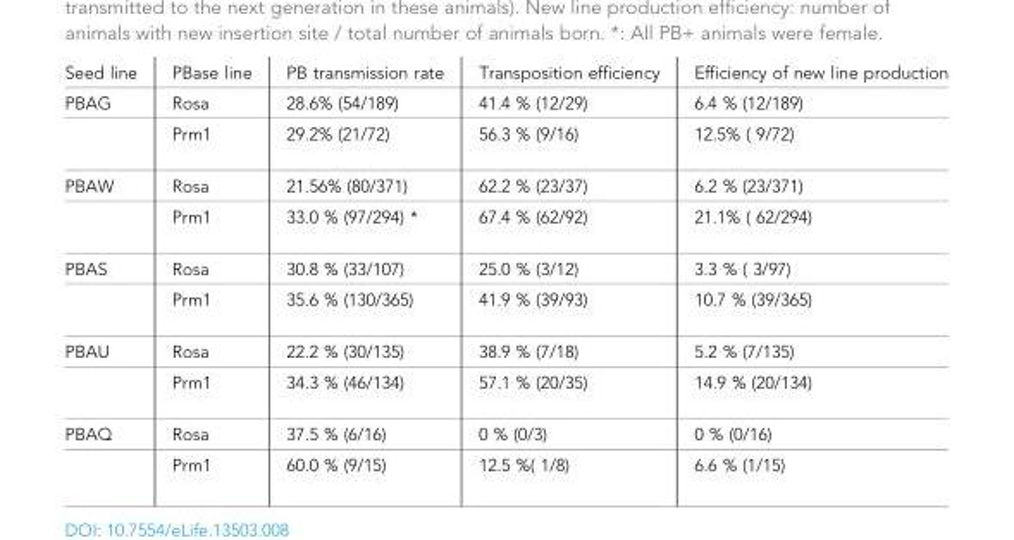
<table><tbody><tr><td>Seed line</td><td>PBase line</td><td>PB transmission rate</td><td>Transposition efficiency</td><td>Efficiency of new line production</td></tr><tr><td rowspan="2">PBAG</td><td>Rosa</td><td>28.6% (54/189)</td><td>41.4 % (12/29)</td><td>6.4 % (12/189)</td></tr><tr><td>Prm1</td><td>29.2% (21/72)</td><td>56.3 % (9/16)</td><td>12.5% ( 9/72)</td></tr><tr><td rowspan="2">PBAW</td><td>Rosa</td><td>21.56% (80/371)</td><td>62.2 % (23/37)</td><td>6.2 % (23/371)</td></tr><tr><td>Prm1</td><td>33.0 % (97/294) *</td><td>67.4 % (62/92)</td><td>21.1% ( 62/294)</td></tr><tr><td rowspan="2">PBAS</td><td>Rosa</td><td>30.8 % (33/107)</td><td>25.0 % (3/12)</td><td>3.3 % ( 3/97)</td></tr><tr><td>Prm1</td><td>35.6 % (130/365)</td><td>41.9 % (39/93)</td><td>10.7 % (39/365)</td></tr><tr><td rowspan="2">PBAU</td><td>Rosa</td><td>22.2 % (30/135)</td><td>38.9 % (7/18)</td><td>5.2 % (7/135)</td></tr><tr><td>Prm1</td><td>34.3 % (46/134)</td><td>57.1 % (20/35)</td><td>14.9 % (20/134)</td></tr><tr><td rowspan="2">PBAQ</td><td>Rosa</td><td>37.5 % (6/16)</td><td>0 % (0/3)</td><td>0 % (0/16)</td></tr><tr><td>Prm1</td><td>60.0 % (9/15)</td><td>12.5 %( 1/8)</td><td>6.6 % (1/15)</td></tr></tbody></table>